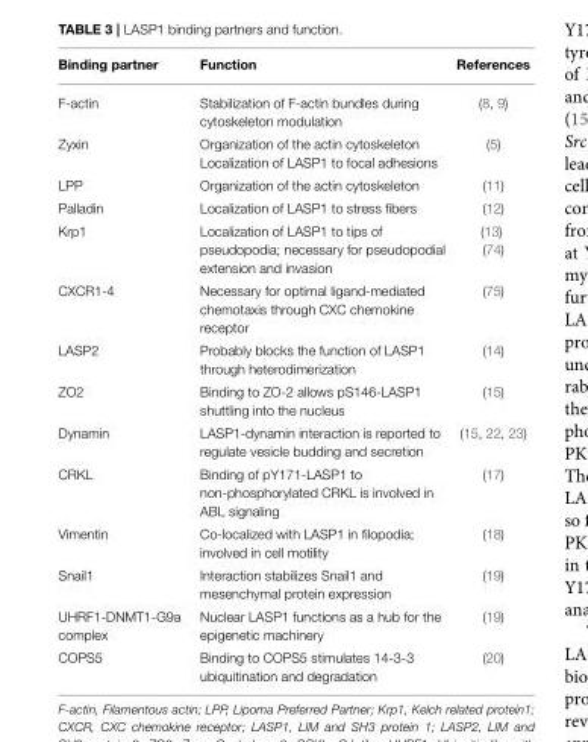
<table><thead><tr><td>Binding partner</td><td>Function</td><td>References</td></tr></thead><tbody><tr><td>F-actin</td><td>Stabilization of F-actin bundles during cytoskeleton modulation</td><td>(8, 9)</td></tr><tr><td>Zyxin</td><td>Organization of the actin cytoskeleton Localization of LASP1 to focal adhesions</td><td>(5)</td></tr><tr><td>LPP</td><td>Organization of the actin cytoskeleton</td><td>(11)</td></tr><tr><td>Palladin</td><td>Localization of LASP1 to stress fibers</td><td>(12)</td></tr><tr><td>Krp1</td><td>Localization of LASP1 to tips of pseudopodia; necessary for pseudopodial extension and invasion</td><td>(13) (74)</td></tr><tr><td>CXCR1-4</td><td>Necessary for optimal ligand-mediated chemotaxis through CXC chemokine receptor</td><td>(75)</td></tr><tr><td>LASP2</td><td>Probably blocks the function of LASP1 through heterodimerization</td><td>(14)</td></tr><tr><td>ZO2</td><td>Binding to ZO-2 allows pS146-LASP1 shuttling into the nucleus</td><td>(15)</td></tr><tr><td>Dynamin</td><td>LASP1-dynamin interaction is reported to regulate vesicle budding and secretion</td><td>(15, 22, 23)</td></tr><tr><td>CRKL</td><td>Binding of pY171-LASP1 to non-phosphorylated CRKL is involved in ABL signaling</td><td>(17)</td></tr><tr><td>Vimentin</td><td>Co-localized with LASP1 in filopodia; involved in cell motility</td><td>(18)</td></tr><tr><td>Snail1</td><td>Interaction stabilizes Snail1 and mesenchymal protein expression</td><td>(19)</td></tr><tr><td>UHRF1-DNMT1-G9a complex</td><td>Nuclear LASP1 functions as a hub for the epigenetic machinery</td><td>(19)</td></tr><tr><td>COPS5</td><td>Binding to COPS5 stimulates 14-3-3 ubiquitination and degradation</td><td>(20)</td></tr></tbody></table>